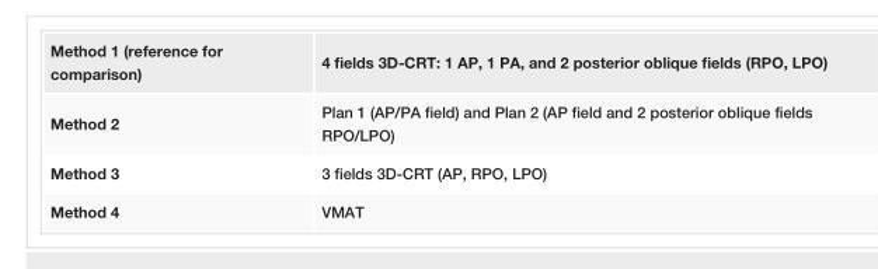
<table><tbody><tr><td>Method 1 (reference for comparison)</td><td>4 fields 3D-CRT: 1 AP, 1 PA, and 2 posterior oblique fields (RPO, LPO)</td></tr><tr><td>Method 2</td><td>Plan 1 (AP/PA field) and Plan 2 (AP field and 2 posterior oblique fields RPO/LPO)</td></tr><tr><td>Method 3</td><td>3 fields 3D-CRT (AP, RPO, LPO)</td></tr><tr><td>Method 4</td><td>VMAT</td></tr></tbody></table>